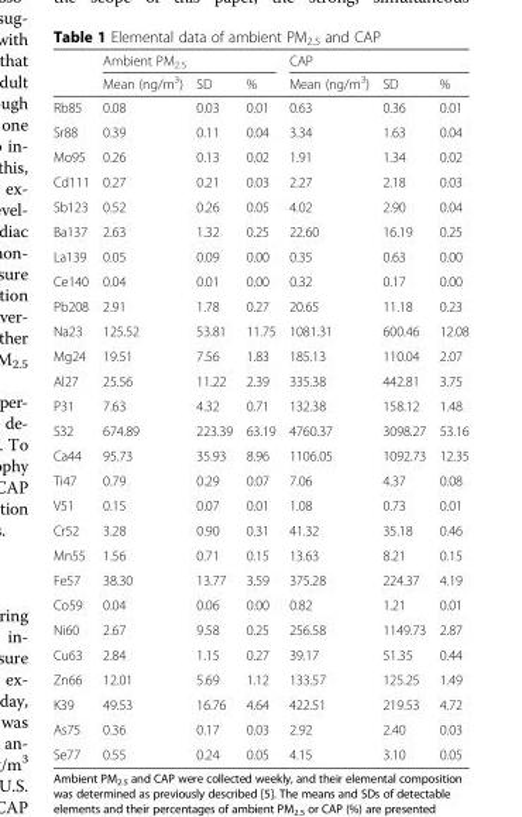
<table><thead><tr><td rowspan="2"></td><td colspan="3">Ambient PM<sub>2.5</sub></td><td colspan="3">CAP</td></tr><tr><td>Mean (ng/m<sup>3</sup>)</td><td>SD</td><td>%</td><td>Mean (ng/m<sup>3</sup>)</td><td>SD</td><td>%</td></tr></thead><tbody><tr><td>Rb85</td><td>0.08</td><td>0.03</td><td>0.01</td><td>0.63</td><td>0.36</td><td>0.01</td></tr><tr><td>Sr88</td><td>0.39</td><td>0.11</td><td>0.04</td><td>3.34</td><td>1.63</td><td>0.04</td></tr><tr><td>Mo95</td><td>0.26</td><td>0.13</td><td>0.02</td><td>1.91</td><td>1.34</td><td>0.02</td></tr><tr><td>Cd111</td><td>0.27</td><td>0.21</td><td>0.03</td><td>2.27</td><td>2.18</td><td>0.03</td></tr><tr><td>Sb123</td><td>0.52</td><td>0.26</td><td>0.05</td><td>4.02</td><td>2.90</td><td>0.04</td></tr><tr><td>Ba137</td><td>2.63</td><td>1.32</td><td>0.25</td><td>22.60</td><td>16.19</td><td>0.25</td></tr><tr><td>La139</td><td>0.05</td><td>0.09</td><td>0.00</td><td>0.35</td><td>0.63</td><td>0.00</td></tr><tr><td>Ce140</td><td>0.04</td><td>0.01</td><td>0.00</td><td>0.32</td><td>0.17</td><td>0.00</td></tr><tr><td>Pb208</td><td>2.91</td><td>1.78</td><td>0.27</td><td>20.65</td><td>11.18</td><td>0.23</td></tr><tr><td>Na23</td><td>125.52</td><td>53.81</td><td>11.75</td><td>1081.31</td><td>600.46</td><td>12.08</td></tr><tr><td>Mg24</td><td>19.51</td><td>7.56</td><td>1.83</td><td>185.13</td><td>110.04</td><td>2.07</td></tr><tr><td>Al27</td><td>25.56</td><td>11.22</td><td>2.39</td><td>335.38</td><td>442.81</td><td>3.75</td></tr><tr><td>P31</td><td>7.63</td><td>4.32</td><td>0.71</td><td>132.38</td><td>158.12</td><td>1.48</td></tr><tr><td>S32</td><td>674.89</td><td>223.39</td><td>63.19</td><td>4760.37</td><td>3098.27</td><td>53.16</td></tr><tr><td>Ca44</td><td>95.73</td><td>35.93</td><td>8.96</td><td>1106.05</td><td>1092.73</td><td>12.35</td></tr><tr><td>Ti47</td><td>0.79</td><td>0.29</td><td>0.07</td><td>7.06</td><td>4.37</td><td>0.08</td></tr><tr><td>V51</td><td>0.15</td><td>0.07</td><td>0.01</td><td>1.08</td><td>0.73</td><td>0.01</td></tr><tr><td>Cr52</td><td>3.28</td><td>0.90</td><td>0.31</td><td>41.32</td><td>35.18</td><td>0.46</td></tr><tr><td>Mn55</td><td>1.56</td><td>0.71</td><td>0.15</td><td>13.63</td><td>8.21</td><td>0.15</td></tr><tr><td>Fe57</td><td>38.30</td><td>13.77</td><td>3.59</td><td>375.28</td><td>224.37</td><td>4.19</td></tr><tr><td>Co59</td><td>0.04</td><td>0.06</td><td>0.00</td><td>0.82</td><td>1.21</td><td>0.01</td></tr><tr><td>Ni60</td><td>2.67</td><td>9.58</td><td>0.25</td><td>256.58</td><td>1149.73</td><td>2.87</td></tr><tr><td>Cu63</td><td>2.84</td><td>1.15</td><td>0.27</td><td>39.17</td><td>51.35</td><td>0.44</td></tr><tr><td>Zn66</td><td>12.01</td><td>5.69</td><td>1.12</td><td>133.57</td><td>125.25</td><td>1.49</td></tr><tr><td>K39</td><td>49.53</td><td>16.76</td><td>4.64</td><td>422.51</td><td>219.53</td><td>4.72</td></tr><tr><td>As75</td><td>0.36</td><td>0.17</td><td>0.03</td><td>2.92</td><td>2.40</td><td>0.03</td></tr><tr><td>Se77</td><td>0.55</td><td>0.24</td><td>0.05</td><td>4.15</td><td>3.10</td><td>0.05</td></tr></tbody></table>